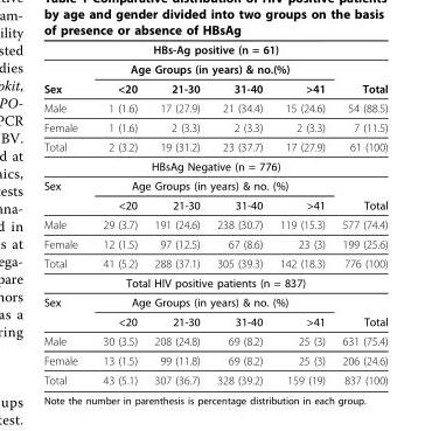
<table><thead><tr><td colspan="6">HBs-Ag positive (n = 61)</td></tr><tr><td rowspan="2">Sex</td><td colspan="4">Age Groups (in years) &amp; no.(%)</td><td rowspan="2">Total</td></tr><tr><td>&lt;20</td><td>21-30</td><td>31-40</td><td>&gt;41</td></tr></thead><tbody><tr><td>Male</td><td>1 (1.6)</td><td>17 (27.9)</td><td>21 (34.4)</td><td>15 (24.6)</td><td>54 (88.5)</td></tr><tr><td>Female</td><td>1 (1.6)</td><td>2 (3.3)</td><td>2 (3.3)</td><td>2 (3.3)</td><td>7 (11.5)</td></tr><tr><td>Total</td><td>2 (3.2)</td><td>19 (31.2)</td><td>23 (37.7)</td><td>17 (27.9)</td><td>61 (100)</td></tr><tr><td colspan="6">HBsAg Negative (n = 776)</td></tr><tr><td rowspan="2">Sex</td><td colspan="4">Age Groups (in years) &amp; no. (%)</td><td></td></tr><tr><td>&lt;20</td><td>21-30</td><td>31-40</td><td>&gt;41</td><td>Total</td></tr><tr><td>Male</td><td>29 (3.7)</td><td>191 (24.6)</td><td>238 (30.7)</td><td>119 (15.3)</td><td>577 (74.4)</td></tr><tr><td>Female</td><td>12 (1.5)</td><td>97 (12.5)</td><td>67 (8.6)</td><td>23 (3)</td><td>199 (25.6)</td></tr><tr><td>Total</td><td>41 (5.2)</td><td>288 (37.1)</td><td>305 (39.3)</td><td>142 (18.3)</td><td>776 (100)</td></tr><tr><td colspan="6">Total HIV positive patients (n = 837)</td></tr><tr><td rowspan="2">Sex</td><td colspan="4">Age Groups (in years) &amp; no. (%)</td><td></td></tr><tr><td>&lt;20</td><td>21-30</td><td>31-40</td><td>&gt;41</td><td>Total</td></tr><tr><td>Male</td><td>30 (3.5)</td><td>208 (24.8)</td><td>69 (8.2)</td><td>25 (3)</td><td>631 (75.4)</td></tr><tr><td>Female</td><td>13 (1.5)</td><td>99 (11.8)</td><td>69 (8.2)</td><td>25 (3)</td><td>206 (24.6)</td></tr><tr><td>Total</td><td>43 (5.1)</td><td>307 (36.7)</td><td>328 (39.2)</td><td>159 (19)</td><td>837 (100)</td></tr></tbody></table>